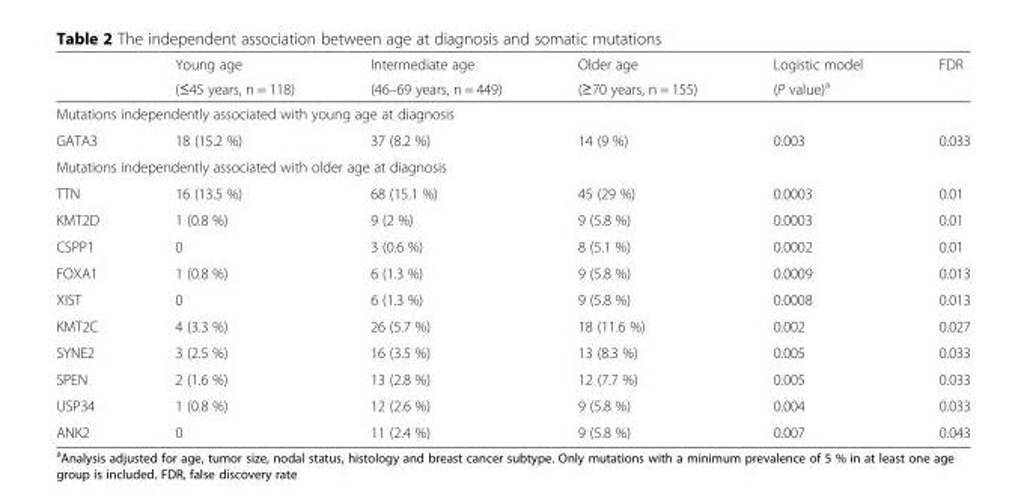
<table><thead><tr><td rowspan="2"></td><td rowspan="2">Young age (≤45 years, n = 118)</td><td rowspan="2">Intermediate age (46–69 years, n = 449)</td><td rowspan="2">Older age (≥70 years, n = 155)</td><td rowspan="2">Logistic model (P value)<sup>a</sup></td><td rowspan="2">FDR</td></tr><tr></tr></thead><tbody><tr><td colspan="6">Mutations independently associated with young age at diagnosis</td></tr><tr><td>GATA3</td><td>18 (15.2 %)</td><td>37 (8.2 %)</td><td>14 (9 %)</td><td>0.003</td><td>0.033</td></tr><tr><td colspan="6">Mutations independently associated with older age at diagnosis</td></tr><tr><td>TTN</td><td>16 (13.5 %)</td><td>68 (15.1 %)</td><td>45 (29 %)</td><td>0.0003</td><td>0.01</td></tr><tr><td>KMT2D</td><td>1 (0.8 %)</td><td>9 (2 %)</td><td>9 (5.8 %)</td><td>0.0003</td><td>0.01</td></tr><tr><td>CSPP1</td><td>0</td><td>3 (0.6 %)</td><td>8 (5.1 %)</td><td>0.0002</td><td>0.01</td></tr><tr><td>FOXA1</td><td>1 (0.8 %)</td><td>6 (1.3 %)</td><td>9 (5.8 %)</td><td>0.0009</td><td>0.013</td></tr><tr><td>XIST</td><td>0</td><td>6 (1.3 %)</td><td>9 (5.8 %)</td><td>0.0008</td><td>0.013</td></tr><tr><td>KMT2C</td><td>4 (3.3 %)</td><td>26 (5.7 %)</td><td>18 (11.6 %)</td><td>0.002</td><td>0.027</td></tr><tr><td>SYNE2</td><td>3 (2.5 %)</td><td>16 (3.5 %)</td><td>13 (8.3 %)</td><td>0.005</td><td>0.033</td></tr><tr><td>SPEN</td><td>2 (1.6 %)</td><td>13 (2.8 %)</td><td>12 (7.7 %)</td><td>0.005</td><td>0.033</td></tr><tr><td>USP34</td><td>1 (0.8 %)</td><td>12 (2.6 %)</td><td>9 (5.8 %)</td><td>0.004</td><td>0.033</td></tr><tr><td>ANK2</td><td>0</td><td>11 (2.4 %)</td><td>9 (5.8 %)</td><td>0.007</td><td>0.043</td></tr></tbody></table>